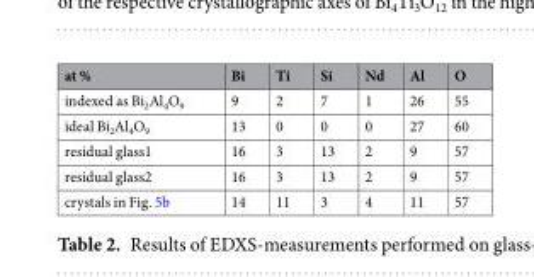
<table><thead><tr><td>at %</td><td>Bi</td><td>Ti</td><td>Si</td><td>Nd</td><td>Al</td><td>O</td></tr></thead><tbody><tr><td>indexed as Bi<sub>2</sub>Al<sub>4</sub>O<sub>9</sub></td><td>9</td><td>2</td><td>7</td><td>1</td><td>26</td><td>55</td></tr><tr><td>ideal Bi<sub>2</sub>Al<sub>4</sub>O<sub>9</sub></td><td>13</td><td>0</td><td>0</td><td>0</td><td>27</td><td>60</td></tr><tr><td>residual glass1</td><td>16</td><td>3</td><td>13</td><td>2</td><td>9</td><td>57</td></tr><tr><td>residual glass2</td><td>16</td><td>3</td><td>13</td><td>2</td><td>9</td><td>57</td></tr><tr><td>crystals in Fig. 5b</td><td>14</td><td>11</td><td>3</td><td>4</td><td>11</td><td>57</td></tr></tbody></table>